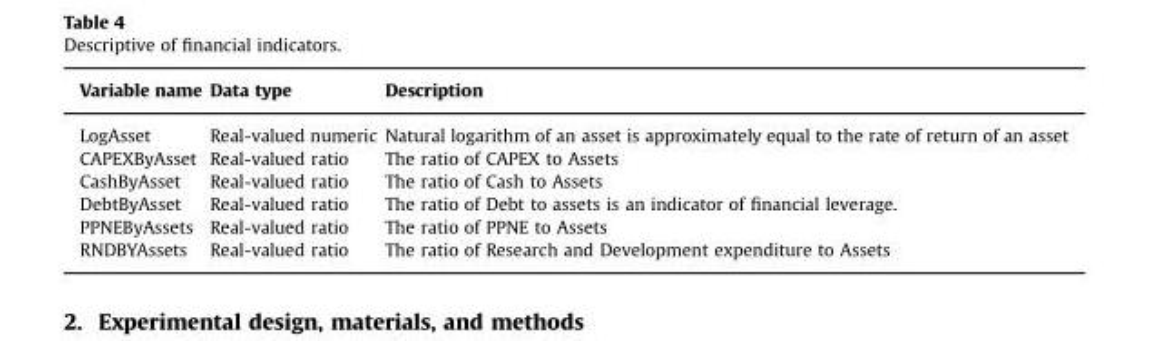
<table><thead><tr><td>Variable name</td><td>Data type</td><td>Description</td></tr></thead><tbody><tr><td>LogAsset</td><td>Real-valued numeric</td><td>Natural logarithm of an asset is approximately equal to the rate of return of an asset</td></tr><tr><td>CAPEXByAsset</td><td>Real-valued ratio</td><td>The ratio of CAPEX to Assets</td></tr><tr><td>CashByAsset</td><td>Real-valued ratio</td><td>The ratio of Cash to Assets</td></tr><tr><td>DebtByAsset</td><td>Real-valued ratio</td><td>The ratio of Debt to assets is an indicator of financial leverage.</td></tr><tr><td>PPNEByAssets</td><td>Real-valued ratio</td><td>The ratio of PPNE to Assets</td></tr><tr><td>RNDBYAssets</td><td>Real-valued ratio</td><td>The ratio of Research and Development expenditure to Assets</td></tr></tbody></table>